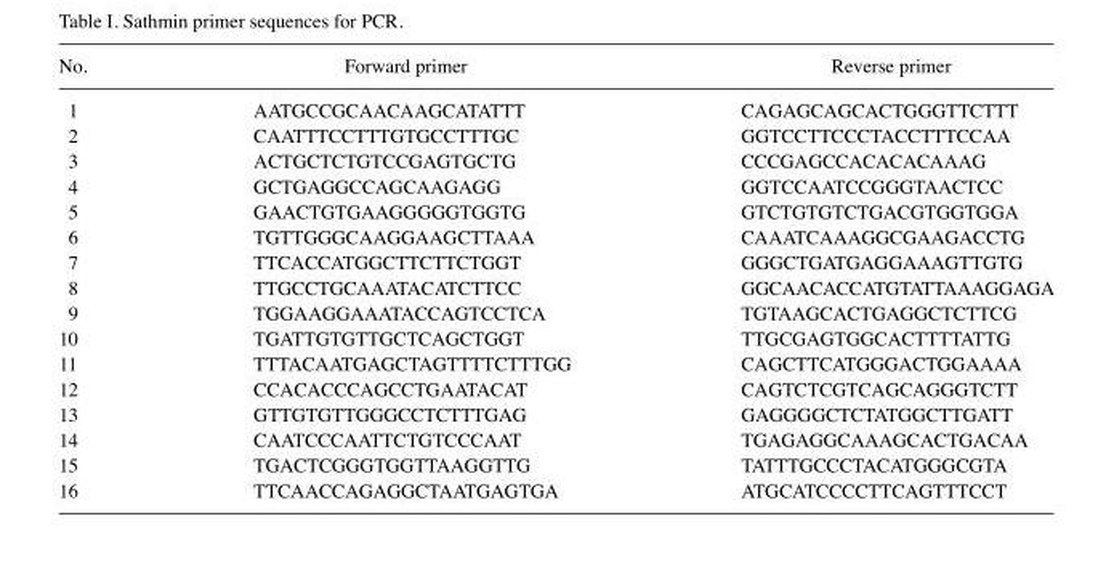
<table><thead><tr><td>No.</td><td>Forward primer</td><td>Reverse primer</td></tr></thead><tbody><tr><td>1</td><td>AATGCCGCAACAAGCATATTT</td><td>CAGAGCAGCACTGGGTTCTTT</td></tr><tr><td>2</td><td>CAATTTCCTTTGTGCCTTTGC</td><td>GGTCCTTCCCTACCTTTCCAA</td></tr><tr><td>3</td><td>ACTGCTCTGTCCGAGTGCTG</td><td>CCCGAGCCACACACAAAG</td></tr><tr><td>4</td><td>GCTGAGGCCAGCAAGAGG</td><td>GGTCCAATCCGGGTAACTCC</td></tr><tr><td>5</td><td>GAACTGTGAAGGGGGTGGTG</td><td>GTCTGTGTCTGACGTGGTGGA</td></tr><tr><td>6</td><td>TGTTGGGCAAGGAAGCTTAAA</td><td>CAAATCAAAGGCGAAGACCTG</td></tr><tr><td>7</td><td>TTCACCATGGCTTCTTCTGGT</td><td>GGGCTGATGAGGAAAGTTGTG</td></tr><tr><td>8</td><td>TTGCCTGCAAATACATCTTCC</td><td>GGCAACACCATGTATTAAAGGAGA</td></tr><tr><td>9</td><td>TGGAAGGAAATACCAGTCCTCA</td><td>TGTAAGCACTGAGGCTCTTCG</td></tr><tr><td>10</td><td>TGATTGTGTTGCTCAGCTGGT</td><td>TTGCGAGTGGCACTTTTATTG</td></tr><tr><td>11</td><td>TTTACAATGAGCTAGTTTTCTTTGG</td><td>CAGCTTCATGGGACTGGAAAA</td></tr><tr><td>12</td><td>CCACACCCAGCCTGAATACAT</td><td>CAGTCTCGTCAGCAGGGTCTT</td></tr><tr><td>13</td><td>GTTGTGTTGGGCCTCTTTGAG</td><td>GAGGGGCTCTATGGCTTGATT</td></tr><tr><td>14</td><td>CAATCCCAATTCTGTCCCAAT</td><td>TGAGAGGCAAAGCACTGACAA</td></tr><tr><td>15</td><td>TGACTCGGGTGGTTAAGGTTG</td><td>TATTTGCCCTACATGGGCGTA</td></tr><tr><td>16</td><td>TTCAACCAGAGGCTAATGAGTGA</td><td>ATGCATCCCCTTCAGTTTCCT</td></tr></tbody></table>